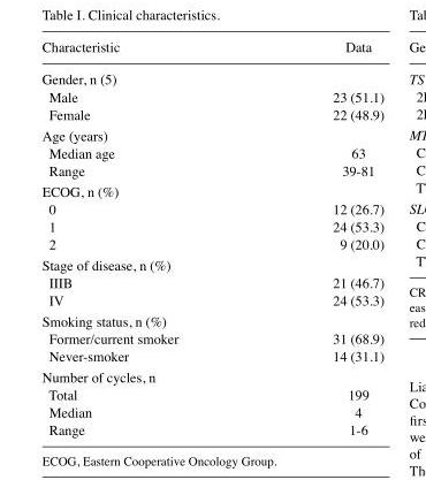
<table><thead><tr><td>Characteristic</td><td>Data</td></tr></thead><tbody><tr><td colspan="2">Gender, n (5)</td></tr><tr><td>Male</td><td>23 (51.1)</td></tr><tr><td>Female</td><td>22 (48.9)</td></tr><tr><td colspan="2">Age (years)</td></tr><tr><td>Median age</td><td>63</td></tr><tr><td>Range</td><td>39-81</td></tr><tr><td colspan="2">ECOG, n (%)</td></tr><tr><td>0</td><td>12 (26.7)</td></tr><tr><td>1</td><td>24 (53.3)</td></tr><tr><td>2</td><td>9 (20.0)</td></tr><tr><td colspan="2">Stage of disease, n (%)</td></tr><tr><td>ⅢB</td><td>21 (46.7)</td></tr><tr><td>Ⅳ</td><td>24 (53.3)</td></tr><tr><td colspan="2">Smoking status, n (%)</td></tr><tr><td>Former/current smoker</td><td>31 (68.9)</td></tr><tr><td>Never-smoker</td><td>14 (31.1)</td></tr><tr><td colspan="2">Number of cycles, n</td></tr><tr><td>Total</td><td>199</td></tr><tr><td>Median</td><td>4</td></tr><tr><td>Range</td><td>1-6</td></tr></tbody></table>